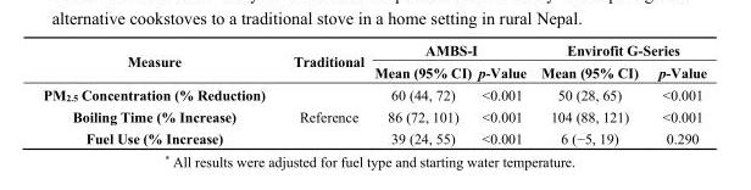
<table><thead><tr><td rowspan="2">Measure</td><td rowspan="2">Traditional</td><td colspan="2">AMBS-I</td><td colspan="2">Envirofit G-Series</td></tr><tr><td>Mean (95% CI)</td><td>p-Value</td><td>Mean (95% CI)</td><td>p-Value</td></tr></thead><tbody><tr><td>PM<sub>2.5</sub> Concentration (% Reduction)</td><td></td><td>60 (44, 72)</td><td>&lt;0.001</td><td>50 (28, 65)</td><td>&lt;0.001</td></tr><tr><td>Boiling Time (% Increase)</td><td>Reference</td><td>86 (72, 101)</td><td>&lt;0.001</td><td>104 (88, 121)</td><td>&lt;0.001</td></tr><tr><td>Fuel Use (% Increase)</td><td></td><td>39 (24, 55)</td><td>&lt;0.001</td><td>6 (−5, 19)</td><td>0.290</td></tr></tbody></table>